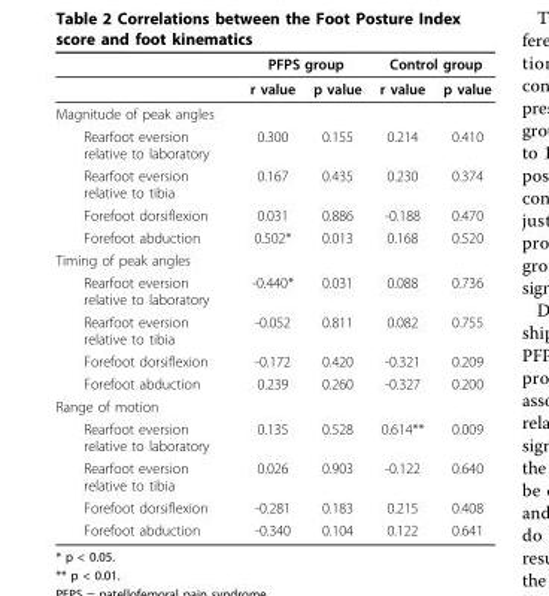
<table><thead><tr><td rowspan="2"></td><td colspan="2">PFPS group</td><td colspan="2">Control group</td></tr><tr><td>r value</td><td>p value</td><td>r value</td><td>p value</td></tr></thead><tbody><tr><td colspan="5">Magnitude of peak angles</td></tr><tr><td>Rearfoot eversion relative to laboratory</td><td>0.300</td><td>0.155</td><td>0.214</td><td>0.410</td></tr><tr><td>Rearfoot eversion relative to tibia</td><td>0.167</td><td>0.435</td><td>0.230</td><td>0.374</td></tr><tr><td>Forefoot dorsiflexion</td><td>0.031</td><td>0.886</td><td>-0.188</td><td>0.470</td></tr><tr><td>Forefoot abduction</td><td>0.502*</td><td>0.013</td><td>0.168</td><td>0.520</td></tr><tr><td colspan="5">Timing of peak angles</td></tr><tr><td>Rearfoot eversion relative to laboratory</td><td>-0.440*</td><td>0.031</td><td>0.088</td><td>0.736</td></tr><tr><td>Rearfoot eversion relative to tibia</td><td>-0.052</td><td>0.811</td><td>0.082</td><td>0.755</td></tr><tr><td>Forefoot dorsiflexion</td><td>-0.172</td><td>0.420</td><td>-0.321</td><td>0.209</td></tr><tr><td>Forefoot abduction</td><td>0.239</td><td>0.260</td><td>-0.327</td><td>0.200</td></tr><tr><td colspan="5">Range of motion</td></tr><tr><td>Rearfoot eversion relative to laboratory</td><td>0.135</td><td>0.528</td><td>0.614**</td><td>0.009</td></tr><tr><td>Rearfoot eversion relative to tibia</td><td>0.026</td><td>0.903</td><td>-0.122</td><td>0.640</td></tr><tr><td>Forefoot dorsiflexion</td><td>-0.281</td><td>0.183</td><td>0.215</td><td>0.408</td></tr><tr><td>Forefoot abduction</td><td>-0.340</td><td>0.104</td><td>0.122</td><td>0.641</td></tr></tbody></table>